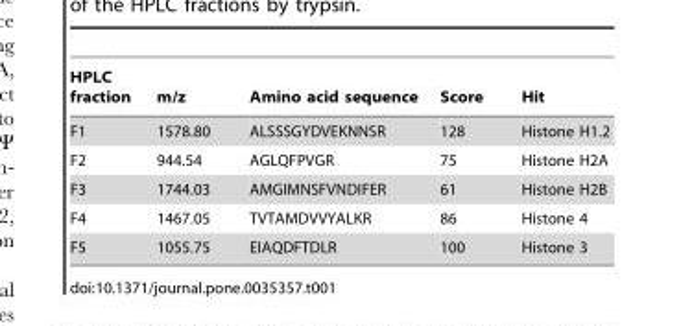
<table><thead><tr><td>HPLC fraction</td><td>m/z</td><td>Amino acid sequence</td><td>Score</td><td>Hit</td></tr></thead><tbody><tr><td>F1</td><td>1578.80</td><td>ALSSSGYDVEKNNSR</td><td>128</td><td>Histone H1.2</td></tr><tr><td>F2</td><td>944.54</td><td>AGLQFPVGR</td><td>75</td><td>Histone H2A</td></tr><tr><td>F3</td><td>1744.03</td><td>AMGIMNSFVNDIFER</td><td>61</td><td>Histone H2B</td></tr><tr><td>F4</td><td>1467.05</td><td>TVTAMDVVYALKR</td><td>86</td><td>Histone 4</td></tr><tr><td>F5</td><td>1055.75</td><td>EIAQDFTDLR</td><td>100</td><td>Histone 3</td></tr></tbody></table>